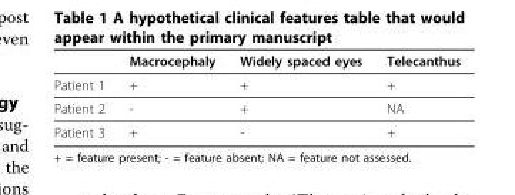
<table><thead><tr><td></td><td>Macrocephaly</td><td>Widely spaced eyes</td><td>Telecanthus</td></tr></thead><tbody><tr><td>Patient 1</td><td>+</td><td>+</td><td>+</td></tr><tr><td>Patient 2</td><td>-</td><td>+</td><td>NA</td></tr><tr><td>Patient 3</td><td>+</td><td>-</td><td>+</td></tr></tbody></table>